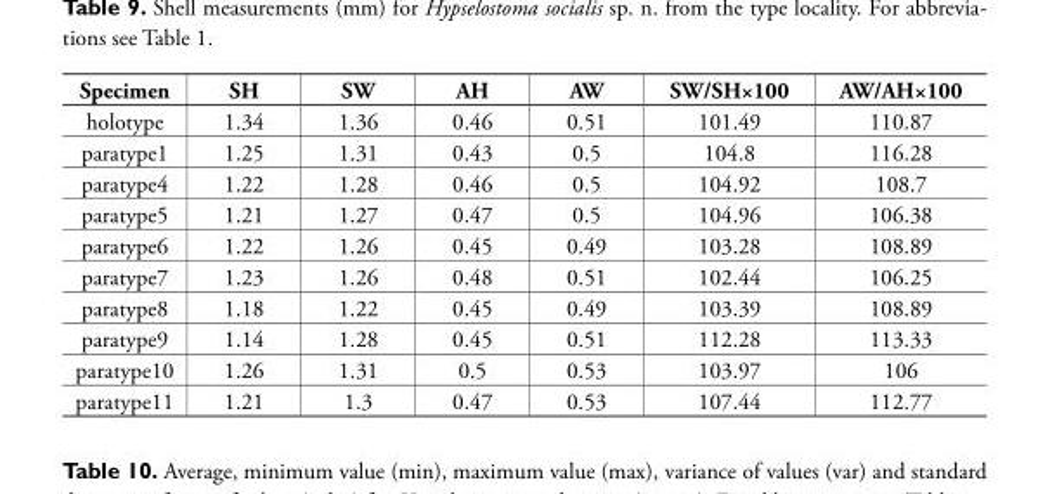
<table><thead><tr><td>Specimen</td><td>SH</td><td>SW</td><td>AH</td><td>AW</td><td>SW/SH×100</td><td>AW/AH×100</td></tr></thead><tbody><tr><td>holotype</td><td>1.34</td><td>1.36</td><td>0.46</td><td>0.51</td><td>101.49</td><td>110.87</td></tr><tr><td>paratype1</td><td>1.25</td><td>1.31</td><td>0.43</td><td>0.5</td><td>104.8</td><td>116.28</td></tr><tr><td>paratype4</td><td>1.22</td><td>1.28</td><td>0.46</td><td>0.5</td><td>104.92</td><td>108.7</td></tr><tr><td>paratype5</td><td>1.21</td><td>1.27</td><td>0.47</td><td>0.5</td><td>104.96</td><td>106.38</td></tr><tr><td>paratype6</td><td>1.22</td><td>1.26</td><td>0.45</td><td>0.49</td><td>103.28</td><td>108.89</td></tr><tr><td>paratype7</td><td>1.23</td><td>1.26</td><td>0.48</td><td>0.51</td><td>102.44</td><td>106.25</td></tr><tr><td>paratype8</td><td>1.18</td><td>1.22</td><td>0.45</td><td>0.49</td><td>103.39</td><td>108.89</td></tr><tr><td>paratype9</td><td>1.14</td><td>1.28</td><td>0.45</td><td>0.51</td><td>112.28</td><td>113.33</td></tr><tr><td>paratype10</td><td>1.26</td><td>1.31</td><td>0.5</td><td>0.53</td><td>103.97</td><td>106</td></tr><tr><td>paratype11</td><td>1.21</td><td>1.3</td><td>0.47</td><td>0.53</td><td>107.44</td><td>112.77</td></tr></tbody></table>